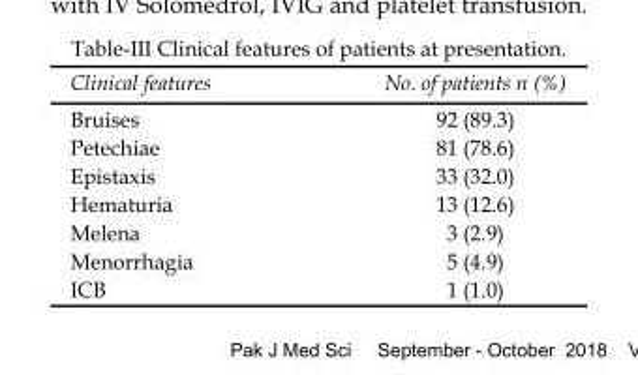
<table><thead><tr><td>Clinical features</td><td>No. of patients n (%)</td></tr></thead><tbody><tr><td>Bruises</td><td>92 (89.3)</td></tr><tr><td>Petechiae</td><td>81 (78.6)</td></tr><tr><td>Epistaxis</td><td>33 (32.0)</td></tr><tr><td>Hematuria</td><td>13 (12.6)</td></tr><tr><td>Melena</td><td>3 (2.9)</td></tr><tr><td>Menorrhagia</td><td>5 (4.9)</td></tr><tr><td>ICB</td><td>1 (1.0)</td></tr></tbody></table>